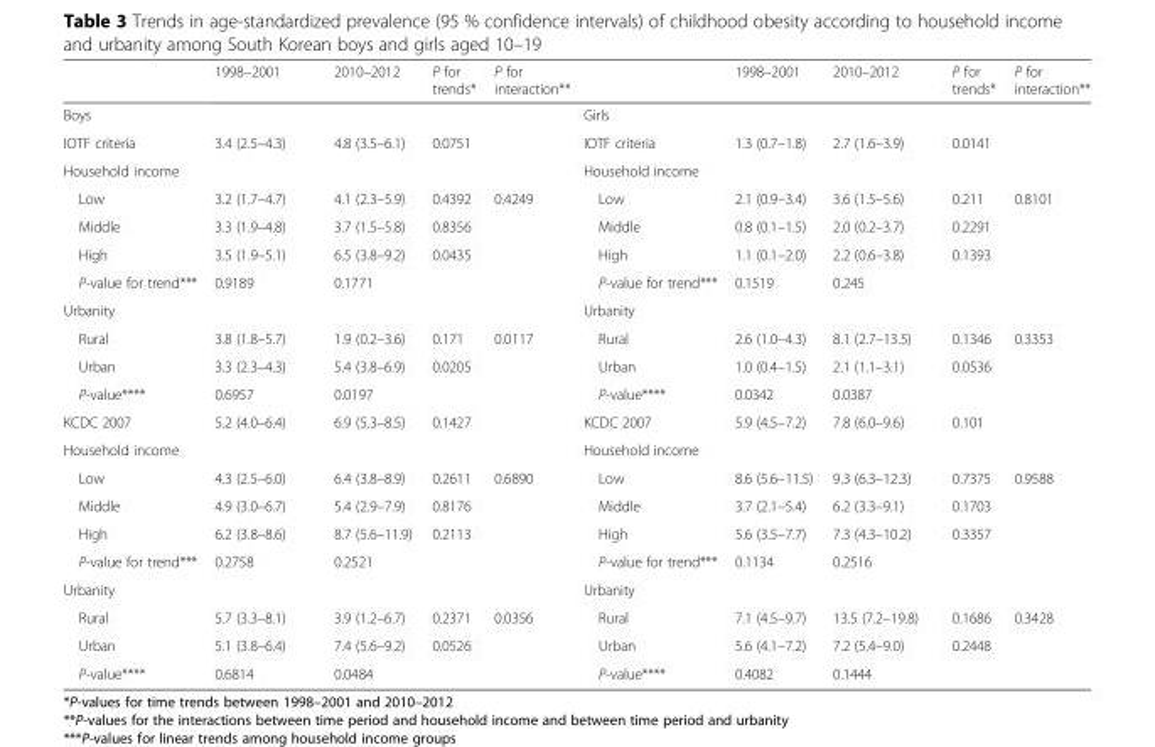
<table><thead><tr><td></td><td>1998–2001</td><td>2010–2012</td><td>P for trends*</td><td>P for interaction**</td><td></td><td>1998–2001</td><td>2010–2012</td><td>P for trends*</td><td>P for interaction**</td></tr></thead><tbody><tr><td>Boys</td><td></td><td></td><td></td><td></td><td>Girls</td><td></td><td></td><td></td><td></td></tr><tr><td>IOTF criteria</td><td>3.4 (2.5–4.3)</td><td>4.8 (3.5–6.1)</td><td>0.0751</td><td></td><td>IOTF criteria</td><td>1.3 (0.7–1.8)</td><td>2.7 (1.6–3.9)</td><td>0.0141</td><td></td></tr><tr><td>Household income</td><td></td><td></td><td></td><td></td><td>Household income</td><td></td><td></td><td></td><td></td></tr><tr><td>Low</td><td>3.2 (1.7–4.7)</td><td>4.1 (2.3–5.9)</td><td>0.4392</td><td>0.4249</td><td>Low</td><td>2.1 (0.9–3.4)</td><td>3.6 (1.5–5.6)</td><td>0.211</td><td>0.8101</td></tr><tr><td>Middle</td><td>3.3 (1.9–4.8)</td><td>3.7 (1.5–5.8)</td><td>0.8356</td><td></td><td>Middle</td><td>0.8 (0.1–1.5)</td><td>2.0 (0.2–3.7)</td><td>0.2291</td><td></td></tr><tr><td>High</td><td>3.5 (1.9–5.1)</td><td>6.5 (3.8–9.2)</td><td>0.0435</td><td></td><td>High</td><td>1.1 (0.1–2.0)</td><td>2.2 (0.6–3.8)</td><td>0.1393</td><td></td></tr><tr><td>P-value for trend***</td><td>0.9189</td><td>0.1771</td><td></td><td></td><td>P-value for trend***</td><td>0.1519</td><td>0.245</td><td></td><td></td></tr><tr><td>Urbanity</td><td></td><td></td><td></td><td></td><td>Urbanity</td><td></td><td></td><td></td><td></td></tr><tr><td>Rural</td><td>3.8 (1.8–5.7)</td><td>1.9 (0.2–3.6)</td><td>0.171</td><td>0.0117</td><td>Rural</td><td>2.6 (1.0–4.3)</td><td>8.1 (2.7–13.5)</td><td>0.1346</td><td>0.3353</td></tr><tr><td>Urban</td><td>3.3 (2.3–4.3)</td><td>5.4 (3.8–6.9)</td><td>0.0205</td><td></td><td>Urban</td><td>1.0 (0.4–1.5)</td><td>2.1 (1.1–3.1)</td><td>0.0536</td><td></td></tr><tr><td>P-value****</td><td>0.6957</td><td>0.0197</td><td></td><td></td><td>P-value****</td><td>0.0342</td><td>0.0387</td><td></td><td></td></tr><tr><td>KCDC 2007</td><td>5.2 (4.0–6.4)</td><td>6.9 (5.3–8.5)</td><td>0.1427</td><td></td><td>KCDC 2007</td><td>5.9 (4.5–7.2)</td><td>7.8 (6.0–9.6)</td><td>0.101</td><td></td></tr><tr><td>Household income</td><td></td><td></td><td></td><td></td><td>Household income</td><td></td><td></td><td></td><td></td></tr><tr><td>Low</td><td>4.3 (2.5–6.0)</td><td>6.4 (3.8–8.9)</td><td>0.2611</td><td>0.6890</td><td>Low</td><td>8.6 (5.6–11.5)</td><td>9.3 (6.3–12.3)</td><td>0.7375</td><td>0.9588</td></tr><tr><td>Middle</td><td>4.9 (3.0–6.7)</td><td>5.4 (2.9–7.9)</td><td>0.8176</td><td></td><td>Middle</td><td>3.7 (2.1–5.4)</td><td>6.2 (3.3–9.1)</td><td>0.1703</td><td></td></tr><tr><td>High</td><td>6.2 (3.8–8.6)</td><td>8.7 (5.6–11.9)</td><td>0.2113</td><td></td><td>High</td><td>5.6 (3.5–7.7)</td><td>7.3 (4.3–10.2)</td><td>0.3357</td><td></td></tr><tr><td>P-value for trend***</td><td>0.2758</td><td>0.2521</td><td></td><td></td><td>P-value for trend***</td><td>0.1134</td><td>0.2516</td><td></td><td></td></tr><tr><td>Urbanity</td><td></td><td></td><td></td><td></td><td>Urbanity</td><td></td><td></td><td></td><td></td></tr><tr><td>Rural</td><td>5.7 (3.3–8.1)</td><td>3.9 (1.2–6.7)</td><td>0.2371</td><td>0.0356</td><td>Rural</td><td>7.1 (4.5–9.7)</td><td>13.5 (7.2–19.8)</td><td>0.1686</td><td>0.3428</td></tr><tr><td>Urban</td><td>5.1 (3.8–6.4)</td><td>7.4 (5.6–9.2)</td><td>0.0526</td><td></td><td>Urban</td><td>5.6 (4.1–7.2)</td><td>7.2 (5.4–9.0)</td><td>0.2448</td><td></td></tr><tr><td>P-value****</td><td>0.6814</td><td>0.0484</td><td></td><td></td><td>P-value****</td><td>0.4082</td><td>0.1444</td><td></td><td></td></tr></tbody></table>